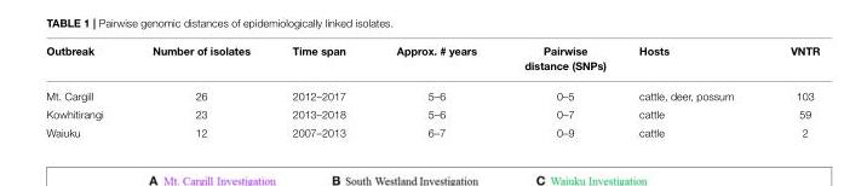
<table><thead><tr><td>Outbreak</td><td>Number of isolates</td><td>Time span</td><td>Approx. # years</td><td>Pairwise distance (SNPs)</td><td>Hosts</td><td>VNTR</td></tr></thead><tbody><tr><td>Mt. Cargill</td><td>26</td><td>2012–2017</td><td>5–6</td><td>0–5</td><td>cattle, deer, possum</td><td>103</td></tr><tr><td>Kowhitirangi</td><td>23</td><td>2013–2018</td><td>5–6</td><td>0–7</td><td>cattle</td><td>59</td></tr><tr><td>Waiuku</td><td>12</td><td>2007–2013</td><td>6–7</td><td>0–9</td><td>cattle</td><td>2</td></tr></tbody></table>